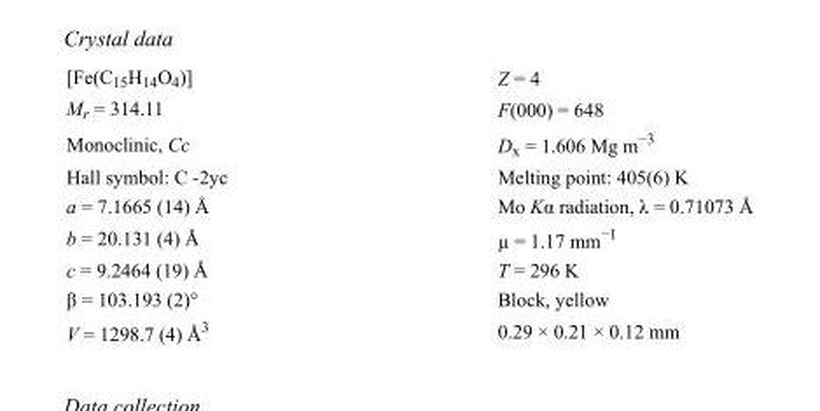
<table><tbody><tr><td>[Fe(C<sub>15</sub>H<sub>14</sub>O<sub>4</sub>)]</td><td>Z = 4</td></tr><tr><td>M<sub>r</sub> = 314.11</td><td>F(000) = 648</td></tr><tr><td>Monoclinic, Cc</td><td>D<sub>x</sub> = 1.606 Mg m<sup>−3</sup></td></tr><tr><td>Hall symbol: C -2yc</td><td>Melting point: 405(6) K</td></tr><tr><td>a = 7.1665 (14) Å</td><td>Mo Kα radiation, λ = 0.71073 Å</td></tr><tr><td>b = 20.131 (4) Å</td><td>µ = 1.17 mm<sup>−1</sup></td></tr><tr><td>c = 9.2464 (19) Å</td><td>T = 296 K</td></tr><tr><td>β = 103.193 (2)°</td><td>Block, yellow</td></tr><tr><td>V = 1298.7 (4) Å<sup>3</sup></td><td>0.29 × 0.21 × 0.12 mm</td></tr></tbody></table>